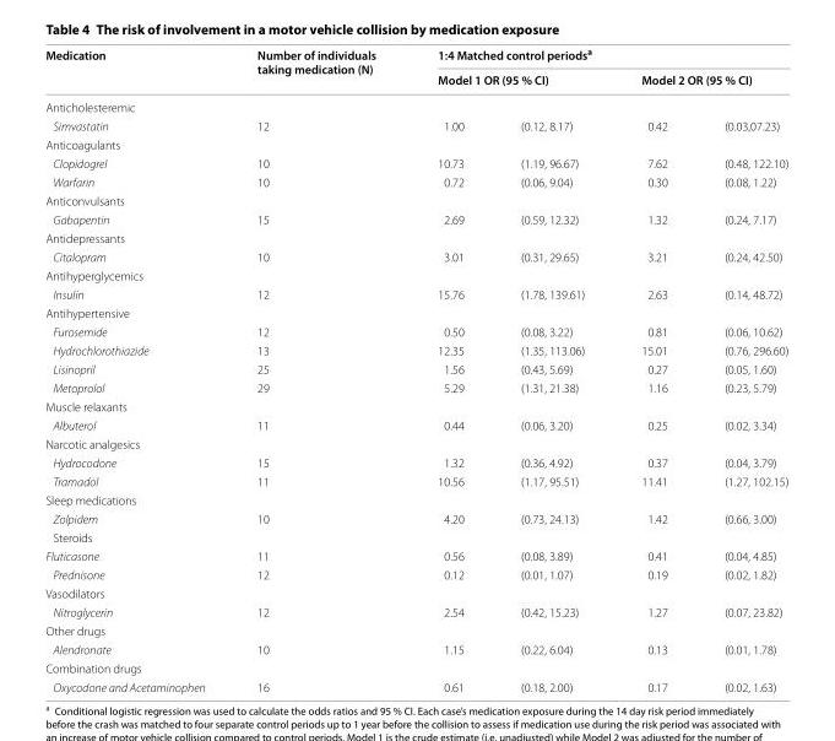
<table><thead><tr><td rowspan="2">Medication</td><td rowspan="2">Number of individuals taking medication (N)</td><td colspan="4">1:4 Matched control periods<sup>a</sup></td></tr><tr><td colspan="2">Model 1 OR (95 % CI)</td><td colspan="2">Model 2 OR (95 % CI)</td></tr><tr><td colspan="6">Anticholesteremic</td></tr><tr><td>Simvastatin</td><td>12</td><td>1.00</td><td>(0.12, 8.17)</td><td>0.42</td><td>(0.03,07.23)</td></tr></thead><tbody><tr><td colspan="6">Anticoagulants</td></tr><tr><td>Clopidogrel</td><td>10</td><td>10.73</td><td>(1.19, 96.67)</td><td>7.62</td><td>(0.48, 122.10)</td></tr><tr><td>Warfarin</td><td>10</td><td>0.72</td><td>(0.06, 9.04)</td><td>0.30</td><td>(0.08, 1.22)</td></tr><tr><td colspan="6">Anticonvulsants</td></tr><tr><td>Gabapentin</td><td>15</td><td>2.69</td><td>(0.59, 12.32)</td><td>1.32</td><td>(0.24, 7.17)</td></tr><tr><td colspan="6">Antidepressants</td></tr><tr><td>Citalopram</td><td>10</td><td>3.01</td><td>(0.31, 29.65)</td><td>3.21</td><td>(0.24, 42.50)</td></tr><tr><td colspan="6">Antihyperglycemics</td></tr><tr><td>Insulin</td><td>12</td><td>15.76</td><td>(1.78, 139.61)</td><td>2.63</td><td>(0.14, 48.72)</td></tr><tr><td colspan="6">Antihypertensive</td></tr><tr><td>Furosemide</td><td>12</td><td>0.50</td><td>(0.08, 3.22)</td><td>0.81</td><td>(0.06, 10.62)</td></tr><tr><td>Hydrochlorothiazide</td><td>13</td><td>12.35</td><td>(1.35, 113.06)</td><td>15.01</td><td>(0.76, 296.60)</td></tr><tr><td>Lisinopril</td><td>25</td><td>1.56</td><td>(0.43, 5.69)</td><td>0.27</td><td>(0.05, 1.60)</td></tr><tr><td>Metoprolol</td><td>29</td><td>5.29</td><td>(1.31, 21.38)</td><td>1.16</td><td>(0.23, 5.79)</td></tr><tr><td colspan="6">Muscle relaxants</td></tr><tr><td>Albuterol</td><td>11</td><td>0.44</td><td>(0.06, 3.20)</td><td>0.25</td><td>(0.02, 3.34)</td></tr><tr><td colspan="6">Narcotic analgesics</td></tr><tr><td>Hydrocodone</td><td>15</td><td>1.32</td><td>(0.36, 4.92)</td><td>0.37</td><td>(0.04, 3.79)</td></tr><tr><td>Tramadol</td><td>11</td><td>10.56</td><td>(1.17, 95.51)</td><td>11.41</td><td>(1.27, 102.15)</td></tr><tr><td colspan="6">Sleep medications</td></tr><tr><td>Zolpidem</td><td>10</td><td>4.20</td><td>(0.73, 24.13)</td><td>1.42</td><td>(0.66, 3.00)</td></tr><tr><td colspan="6">Steroids</td></tr><tr><td>Fluticasone</td><td>11</td><td>0.56</td><td>(0.08, 3.89)</td><td>0.41</td><td>(0.04, 4.85)</td></tr><tr><td>Prednisone</td><td>12</td><td>0.12</td><td>(0.01, 1.07)</td><td>0.19</td><td>(0.02, 1.82)</td></tr><tr><td colspan="6">Vasodilators</td></tr><tr><td>Nitroglycerin</td><td>12</td><td>2.54</td><td>(0.42, 15.23)</td><td>1.27</td><td>(0.07, 23.82)</td></tr><tr><td colspan="6">Other drugs</td></tr><tr><td>Alendronate</td><td>10</td><td>1.15</td><td>(0.22, 6.04)</td><td>0.13</td><td>(0.01, 1.78)</td></tr><tr><td colspan="6">Combination drugs</td></tr><tr><td>Oxycodone and Acetaminophen</td><td>16</td><td>0.61</td><td>(0.18, 2.00)</td><td>0.17</td><td>(0.02, 1.63)</td></tr></tbody></table>